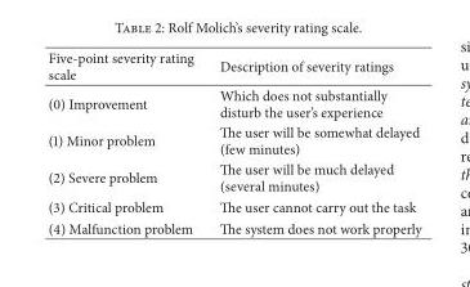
<table><thead><tr><td>Five-point severity rating scale</td><td>Description of severity ratings</td></tr></thead><tbody><tr><td>(0) Improvement</td><td>Which does not substantially disturb the user’s experience</td></tr><tr><td>(1) Minor problem</td><td>The user will be somewhat delayed (few minutes)</td></tr><tr><td>(2) Severe problem</td><td>The user will be much delayed (several minutes)</td></tr><tr><td>(3) Critical problem</td><td>The user cannot carry out the task</td></tr><tr><td>(4) Malfunction problem</td><td>The system does not work properly</td></tr></tbody></table>